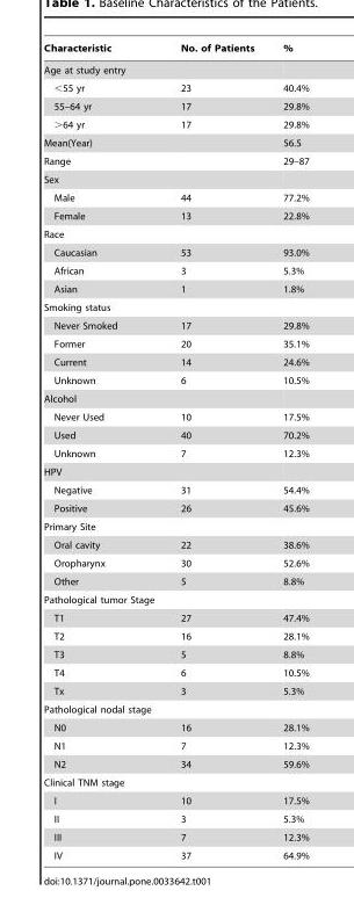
<table><thead><tr><td>Characteristic</td><td>No. of Patients</td><td>%</td></tr></thead><tbody><tr><td colspan="3">Age at study entry</td></tr><tr><td>&lt;55 yr</td><td>23</td><td>40.4%</td></tr><tr><td>55–64 yr</td><td>17</td><td>29.8%</td></tr><tr><td>&gt;64 yr</td><td>17</td><td>29.8%</td></tr><tr><td>Mean(Year)</td><td></td><td>56.5</td></tr><tr><td>Range</td><td></td><td>29–87</td></tr><tr><td colspan="3">Sex</td></tr><tr><td>Male</td><td>44</td><td>77.2%</td></tr><tr><td>Female</td><td>13</td><td>22.8%</td></tr><tr><td colspan="3">Race</td></tr><tr><td>Caucasian</td><td>53</td><td>93.0%</td></tr><tr><td>African</td><td>3</td><td>5.3%</td></tr><tr><td>Asian</td><td>1</td><td>1.8%</td></tr><tr><td colspan="3">Smoking status</td></tr><tr><td>Never Smoked</td><td>17</td><td>29.8%</td></tr><tr><td>Former</td><td>20</td><td>35.1%</td></tr><tr><td>Current</td><td>14</td><td>24.6%</td></tr><tr><td>Unknown</td><td>6</td><td>10.5%</td></tr><tr><td colspan="3">Alcohol</td></tr><tr><td>Never Used</td><td>10</td><td>17.5%</td></tr><tr><td>Used</td><td>40</td><td>70.2%</td></tr><tr><td>Unknown</td><td>7</td><td>12.3%</td></tr><tr><td colspan="3">HPV</td></tr><tr><td>Negative</td><td>31</td><td>54.4%</td></tr><tr><td>Positive</td><td>26</td><td>45.6%</td></tr><tr><td colspan="3">Primary Site</td></tr><tr><td>Oral cavity</td><td>22</td><td>38.6%</td></tr><tr><td>Oropharynx</td><td>30</td><td>52.6%</td></tr><tr><td>Other</td><td>5</td><td>8.8%</td></tr><tr><td colspan="3">Pathological tumor Stage</td></tr><tr><td>T1</td><td>27</td><td>47.4%</td></tr><tr><td>T2</td><td>16</td><td>28.1%</td></tr><tr><td>T3</td><td>5</td><td>8.8%</td></tr><tr><td>T4</td><td>6</td><td>10.5%</td></tr><tr><td>Tx</td><td>3</td><td>5.3%</td></tr><tr><td colspan="3">Pathological nodal stage</td></tr><tr><td>N0</td><td>16</td><td>28.1%</td></tr><tr><td>N1</td><td>7</td><td>12.3%</td></tr><tr><td>N2</td><td>34</td><td>59.6%</td></tr><tr><td colspan="3">Clinical TNM stage</td></tr><tr><td>I</td><td>10</td><td>17.5%</td></tr><tr><td>II</td><td>3</td><td>5.3%</td></tr><tr><td>III</td><td>7</td><td>12.3%</td></tr><tr><td>IV</td><td>37</td><td>64.9%</td></tr></tbody></table>